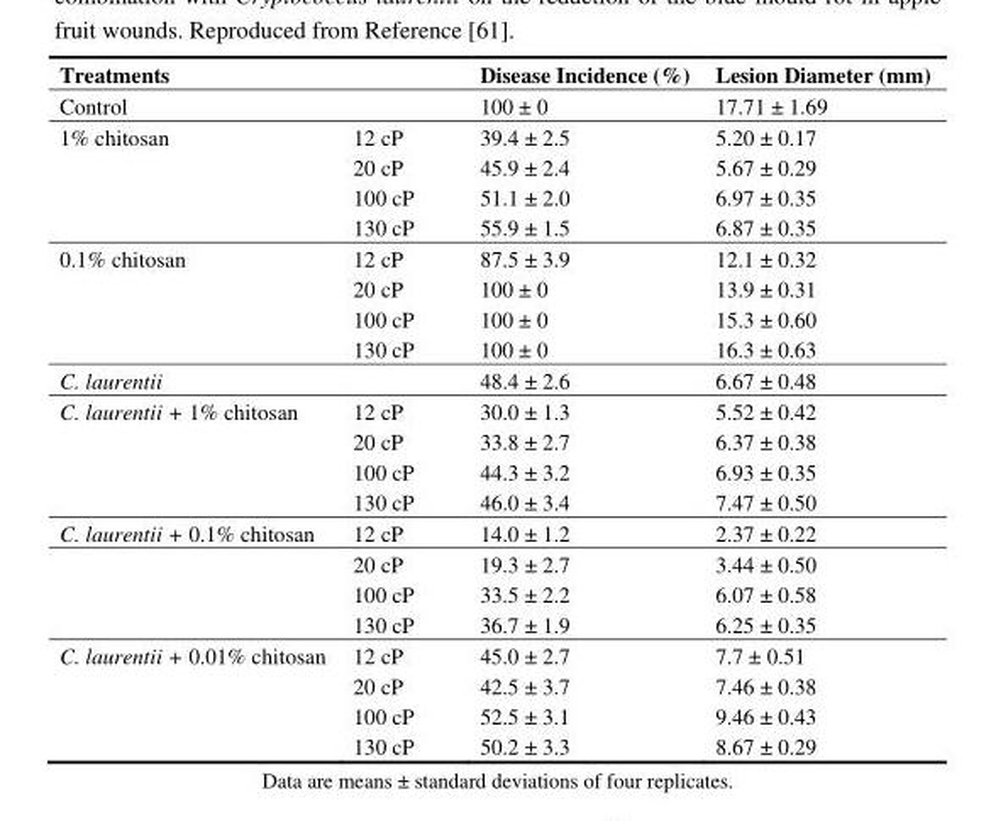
<table><thead><tr><td>Treatments</td><td></td><td>Disease Incidence (%)</td><td>Lesion Diameter (mm)</td></tr></thead><tbody><tr><td>Control</td><td></td><td>100 ± 0</td><td>17.71 ± 1.69</td></tr><tr><td rowspan="4">1% chitosan</td><td>12 cP</td><td>39.4 ± 2.5</td><td>5.20 ± 0.17</td></tr><tr><td>20 cP</td><td>45.9 ± 2.4</td><td>5.67 ± 0.29</td></tr><tr><td>100 cP</td><td>51.1 ± 2.0</td><td>6.97 ± 0.35</td></tr><tr><td>130 cP</td><td>55.9 ± 1.5</td><td>6.87 ± 0.35</td></tr><tr><td rowspan="4">0.1% chitosan</td><td>12 cP</td><td>87.5 ± 3.9</td><td>12.1 ± 0.32</td></tr><tr><td>20 cP</td><td>100 ± 0</td><td>13.9 ± 0.31</td></tr><tr><td>100 cP</td><td>100 ± 0</td><td>15.3 ± 0.60</td></tr><tr><td>130 cP</td><td>100 ± 0</td><td>16.3 ± 0.63</td></tr><tr><td>C. laurentii</td><td></td><td>48.4 ± 2.6</td><td>6.67 ± 0.48</td></tr><tr><td rowspan="4">C. laurentii + 1% chitosan</td><td>12 cP</td><td>30.0 ± 1.3</td><td>5.52 ± 0.42</td></tr><tr><td>20 cP</td><td>33.8 ± 2.7</td><td>6.37 ± 0.38</td></tr><tr><td>100 cP</td><td>44.3 ± 3.2</td><td>6.93 ± 0.35</td></tr><tr><td>130 cP</td><td>46.0 ± 3.4</td><td>7.47 ± 0.50</td></tr><tr><td rowspan="4">C. laurentii + 0.1% chitosan</td><td>12 cP</td><td>14.0 ± 1.2</td><td>2.37 ± 0.22</td></tr><tr><td>20 cP</td><td>19.3 ± 2.7</td><td>3.44 ± 0.50</td></tr><tr><td>100 cP</td><td>33.5 ± 2.2</td><td>6.07 ± 0.58</td></tr><tr><td>130 cP</td><td>36.7 ± 1.9</td><td>6.25 ± 0.35</td></tr><tr><td rowspan="4">C. laurentii + 0.01% chitosan</td><td>12 cP</td><td>45.0 ± 2.7</td><td>7.7 ± 0.51</td></tr><tr><td>20 cP</td><td>42.5 ± 3.7</td><td>7.46 ± 0.38</td></tr><tr><td>100 cP</td><td>52.5 ± 3.1</td><td>9.46 ± 0.43</td></tr><tr><td>130 cP</td><td>50.2 ± 3.3</td><td>8.67 ± 0.29</td></tr></tbody></table>